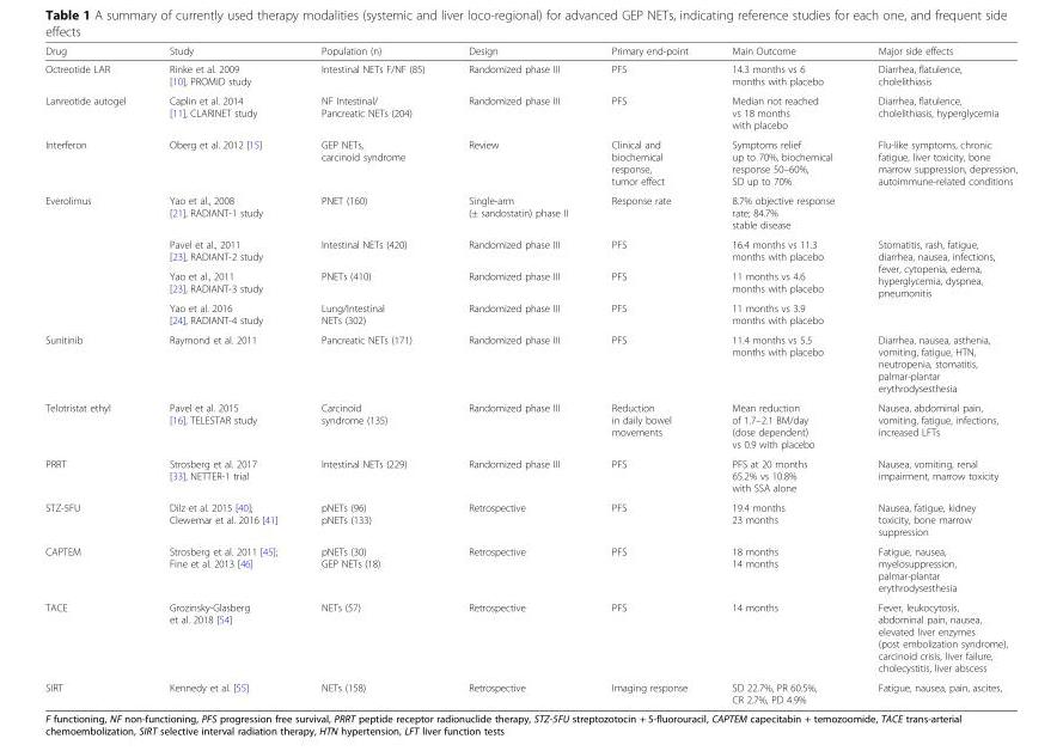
<table><thead><tr><td>Drug</td><td>Study</td><td>Population (n)</td><td>Design</td><td>Primary end-point</td><td>Main Outcome</td><td>Major side effects</td></tr></thead><tbody><tr><td>Octreotide LAR</td><td>Rinke et al. 2009 [10], PROMID study</td><td>Intestinal NETs F/NF (85)</td><td>Randomized phase III</td><td>PFS</td><td>14.3 months vs 6 months with placebo</td><td>Diarrhea, flatulence, cholelithiasis</td></tr><tr><td>Lanreotide autogel</td><td>Caplin et al. 2014 [11], CLARINET study</td><td>NF Intestinal/ Pancreatic NETs (204)</td><td>Randomized phase III</td><td>PFS</td><td>Median not reached vs 18 months with placebo</td><td>Diarrhea, flatulence, cholelithiasis, hyperglycemia</td></tr><tr><td>Interferon</td><td>Oberg et al. 2012 [15]</td><td>GEP NETs, carcinoid syndrome</td><td>Review</td><td>Clinical and biochemical response, tumor effect</td><td>Symptoms relief up to 70%, biochemical response 50–60%, SD up to 70%</td><td>Flu-like symptoms, chronic fatigue, liver toxicity, bone marrow suppression, depression, autoimmune-related conditions</td></tr><tr><td rowspan="4">Everolimus</td><td>Yao et al., 2008 [21], RADIANT-1 study</td><td>PNET (160)</td><td>Single-arm (± sandostatin) phase II</td><td>Response rate</td><td>8.7% objective response rate; 84.7% stable disease</td><td></td></tr><tr><td>Pavel et al., 2011 [23], RADIANT-2 study</td><td>Intestinal NETs (420)</td><td>Randomized phase III</td><td>PFS</td><td>16.4 months vs 11.3 months with placebo</td><td rowspan="3">Stomatitis, rash, fatigue, diarrhea, nausea, infections, fever, cytopenia, edema, hyperglycemia, dyspnea, pneumonitis</td></tr><tr><td>Yao et al., 2011 [23], RADIANT-3 study</td><td>PNETs (410)</td><td>Randomized phase III</td><td>PFS</td><td>11 months vs 4.6 months with placebo</td></tr><tr><td>Yao et al. 2016 [24], RADIANT-4 study</td><td>Lung/Intestinal NETs (302)</td><td>Randomized phase III</td><td>PFS</td><td>11 months vs 3.9 months with placebo</td></tr><tr><td>Sunitinib</td><td>Raymond et al. 2011</td><td>Pancreatic NETs (171)</td><td>Randomized phase III</td><td>PFS</td><td>11.4 months vs 5.5 months with placebo</td><td>Diarrhea, nausea, asthenia, vomiting, fatigue, HTN, neutropenia, stomatitis, palmar-plantar erythrodysesthesia</td></tr><tr><td>Telotristat ethyl</td><td>Pavel et al. 2015 [16], TELESTAR study</td><td>Carcinoid syndrome (135)</td><td>Randomized phase III</td><td>Reduction in daily bowel movements</td><td>Mean reduction of 1.7–2.1 BM/day (dose dependent) vs 0.9 with placebo</td><td>Nausea, abdominal pain, vomiting, fatigue, infections, increased LFTs</td></tr><tr><td>PRRT</td><td>Strosberg et al. 2017 [33], NETTER-1 trial</td><td>Intestinal NETs (229)</td><td>Randomized phase III</td><td>PFS</td><td>PFS at 20 months 65.2% vs 10.8% with SSA alone</td><td>Nausea, vomiting, renal impairment, marrow toxicity</td></tr><tr><td>STZ-5FU</td><td>Dilz et al. 2015 [40]; Clewemar et al. 2016 [41]</td><td>pNETs (96) pNETs (133)</td><td>Retrospective</td><td>PFS</td><td>19.4 months 23 months</td><td>Nausea, fatigue, kidney toxicity, bone marrow suppression</td></tr><tr><td>CAPTEM</td><td>Strosberg et al. 2011 [45]; Fine et al. 2013 [46]</td><td>pNETs (30) GEP NETs (18)</td><td>Retrospective</td><td>PFS</td><td>18 months 14 months</td><td>Fatigue, nausea, myelosuppression, palmar-plantar erythrodysesthesia</td></tr><tr><td>TACE</td><td>Grozinsky-Glasberg et al. 2018 [54]</td><td>NETs (57)</td><td>Retrospective</td><td>PFS</td><td>14 months</td><td>Fever, leukocytosis, abdominal pain, nausea, elevated liver enzymes (post embolization syndrome), carcinoid crisis, liver failure, cholecystitis, liver abscess</td></tr><tr><td>SIRT</td><td>Kennedy et al. [55]</td><td>NETs (158)</td><td>Retrospective</td><td>Imaging response</td><td>SD 22.7%, PR 60.5%, CR 2.7%, PD 4.9%</td><td>Fatigue, nausea, pain, ascites,</td></tr></tbody></table>